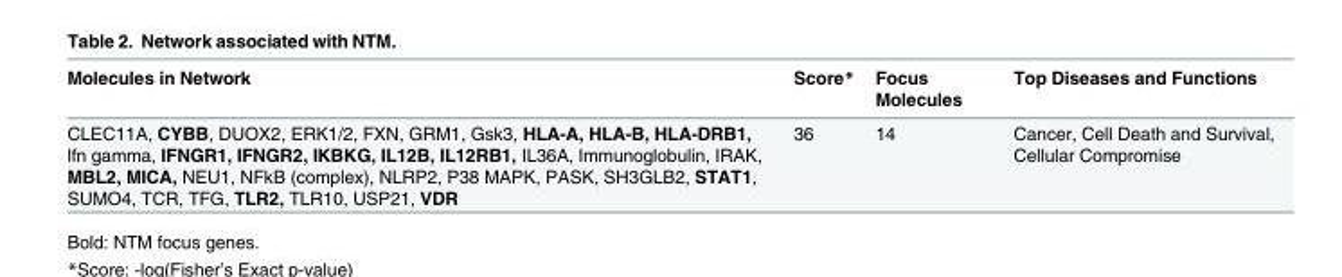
<table><thead><tr><td>Molecules in Network</td><td>Score*</td><td>Focus Molecules</td><td>Top Diseases and Functions</td></tr></thead><tbody><tr><td>CLEC11A, CYBB, DUOX2, ERK1/2, FXN, GRM1, Gsk3, HLA-A, HLA-B, HLA-DRB1, lfn gamma, IFNGR1, IFNGR2, IKBKG, IL12B, IL12RB1, IL36A, Immunoglobulin, IRAK, MBL2, MICA, NEU1, NFkB (complex), NLRP2, P38 MAPK, PASK, SH3GLB2, STAT1, SUMO4, TCR, TFG, TLR2, TLR10, USP21, VDR</td><td>36</td><td>14</td><td>Cancer, Cell Death and Survival, Cellular Compromise</td></tr></tbody></table>